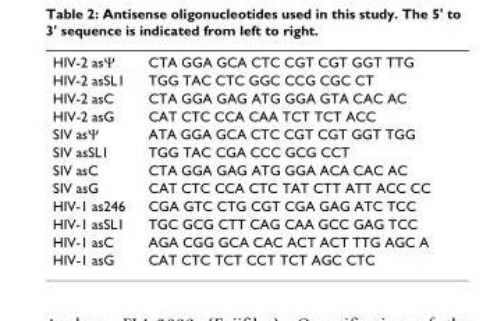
<table><tbody><tr><td>HIV-2 asΨ</td><td>CTA GGA GCA CTC CGT CGT GGT TTG</td></tr><tr><td>HIV-2 asSL1</td><td>TGG TAC CTC GGC CCG CGC CT</td></tr><tr><td>HIV-2 asC</td><td>CTA GGA GAG ATG GGA GTA CAC AC</td></tr><tr><td>HIV-2 asG</td><td>CAT CTC CCA CAA TCT TCT ACC</td></tr><tr><td>SIV asΨ</td><td>ATA GGA GCA CTC CGT CGT GGT TGG</td></tr><tr><td>SIV asSL1</td><td>TGG TAC CGA CCC GCG CCT</td></tr><tr><td>SIV asC</td><td>CTA GGA GAG ATG GGA ACA CAC AC</td></tr><tr><td>SIV asG</td><td>CAT CTC CCA CTC TAT CTT ATT ACC CC</td></tr><tr><td>HIV-1 as246</td><td>CGA GTC CTG CGT CGA GAG ATC TCC</td></tr><tr><td>HIV-1 asSL1</td><td>TGC GCG CTT CAG CAA GCC GAG TCC</td></tr><tr><td>HIV-1 asC</td><td>AGA CGG GCA CAC ACT ACT TTG AGC A</td></tr><tr><td>HIV-1 asG</td><td>CAT CTC TCT CCT TCT AGC CTC</td></tr></tbody></table>